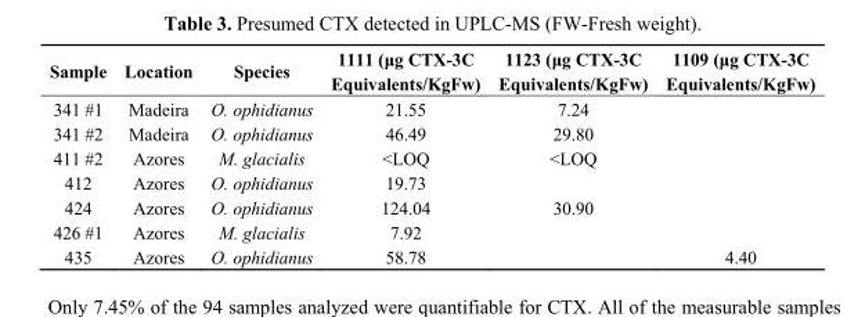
<table><thead><tr><td>Sample</td><td>Location</td><td>Species</td><td>1111 (μg CTX-3C Equivalents/KgFw)</td><td>1123 (μg CTX-3C Equivalents/KgFw)</td><td>1109 (μg CTX-3C Equivalents/KgFw)</td></tr></thead><tbody><tr><td>341 #1</td><td>Madeira</td><td>O. ophidianus</td><td>21.55</td><td>7.24</td><td></td></tr><tr><td>341 #2</td><td>Madeira</td><td>O. ophidianus</td><td>46.49</td><td>29.80</td><td></td></tr><tr><td>411 #2</td><td>Azores</td><td>M. glacialis</td><td>&lt;LOQ</td><td>&lt;LOQ</td><td></td></tr><tr><td>412</td><td>Azores</td><td>O. ophidianus</td><td>19.73</td><td></td><td></td></tr><tr><td>424</td><td>Azores</td><td>O. ophidianus</td><td>124.04</td><td>30.90</td><td></td></tr><tr><td>426 #1</td><td>Azores</td><td>M. glacialis</td><td>7.92</td><td></td><td></td></tr><tr><td>435</td><td>Azores</td><td>O. ophidianus</td><td>58.78</td><td></td><td>4.40</td></tr></tbody></table>